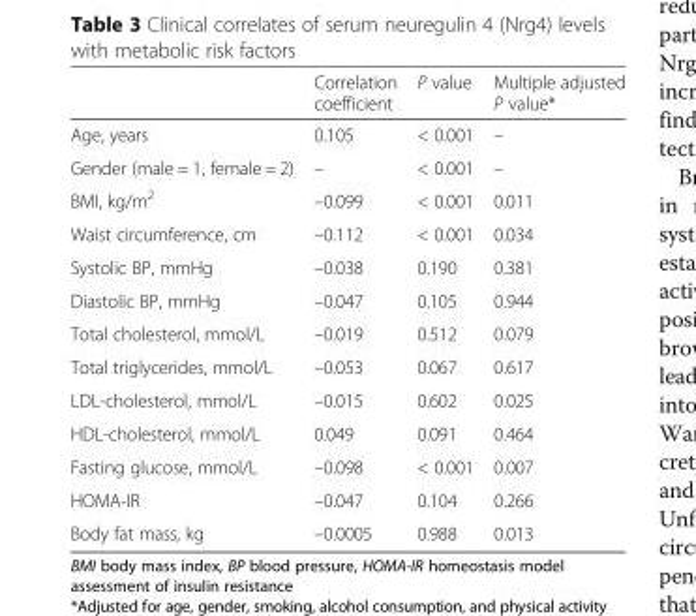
<table><thead><tr><td></td><td>Correlation coefficient</td><td>P value</td><td>Multiple adjusted P value*</td></tr></thead><tbody><tr><td>Age, years</td><td>0.105</td><td>&lt; 0.001</td><td>–</td></tr><tr><td>Gender (male = 1, female = 2)</td><td>–</td><td>&lt; 0.001</td><td>–</td></tr><tr><td>BMI, kg/m<sup>2</sup></td><td>–0.099</td><td>&lt; 0.001</td><td>0.011</td></tr><tr><td>Waist circumference, cm</td><td>–0.112</td><td>&lt; 0.001</td><td>0.034</td></tr><tr><td>Systolic BP, mmHg</td><td>–0.038</td><td>0.190</td><td>0.381</td></tr><tr><td>Diastolic BP, mmHg</td><td>–0.047</td><td>0.105</td><td>0.944</td></tr><tr><td>Total cholesterol, mmol/L</td><td>–0.019</td><td>0.512</td><td>0.079</td></tr><tr><td>Total triglycerides, mmol/L</td><td>–0.053</td><td>0.067</td><td>0.617</td></tr><tr><td>LDL-cholesterol, mmol/L</td><td>–0.015</td><td>0.602</td><td>0.025</td></tr><tr><td>HDL-cholesterol, mmol/L</td><td>0.049</td><td>0.091</td><td>0.464</td></tr><tr><td>Fasting glucose, mmol/L</td><td>–0.098</td><td>&lt; 0.001</td><td>0.007</td></tr><tr><td>HOMA-IR</td><td>–0.047</td><td>0.104</td><td>0.266</td></tr><tr><td>Body fat mass, kg</td><td>–0.0005</td><td>0.988</td><td>0.013</td></tr></tbody></table>